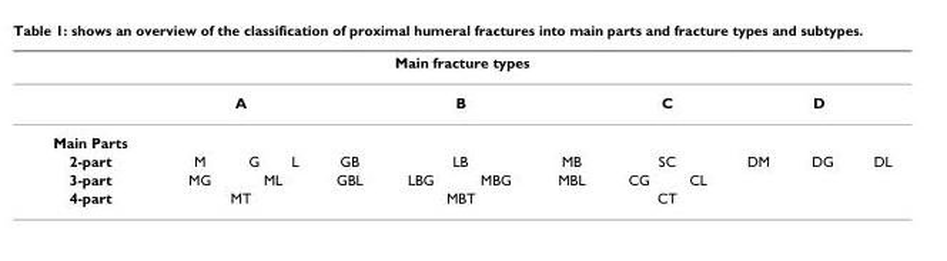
<table><thead><tr><td colspan="13">Main fracture types</td></tr><tr><td rowspan="2">Main Parts</td><td colspan="3">A</td><td colspan="4">B</td><td colspan="2">C</td><td colspan="3">D</td></tr><tr><td></td><td></td><td></td><td></td><td></td><td></td><td></td><td></td><td></td><td></td><td></td><td></td></tr></thead><tbody><tr><td>2-part</td><td>M</td><td>G</td><td>L</td><td>GB</td><td colspan="2">LB</td><td>MB</td><td colspan="2">SC</td><td>DM</td><td>DG</td><td>DL</td></tr><tr><td>3-part</td><td>MG</td><td colspan="2">ML</td><td>GBL</td><td>LBG</td><td>MBG</td><td>MBL</td><td>CG</td><td>CL</td><td></td><td></td><td></td></tr><tr><td>4-part</td><td colspan="3">MT</td><td colspan="4">MBT</td><td colspan="2">CT</td><td></td><td></td><td></td></tr></tbody></table>